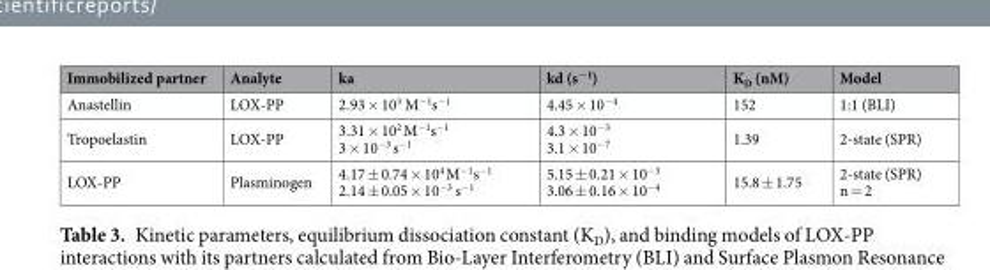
<table><thead><tr><td>Immobilized partner</td><td>Analyte</td><td>ka</td><td>kd (s<sup>−1</sup>)</td><td>K<sub>D</sub> (nM)</td><td>Model</td></tr></thead><tbody><tr><td>Anastellin</td><td>LOX-PP</td><td>2.93 × 10<sup>3</sup> M<sup>−1</sup>s<sup>−1</sup></td><td>4.45 × 10<sup>−4</sup></td><td>152</td><td>1:1 (BLI)</td></tr><tr><td>Tropoelastin</td><td>LOX-PP</td><td>3.31 × 10<sup>2</sup> M<sup>−1</sup>s<sup>−1</sup> 3 × 10<sup>−3</sup> s<sup>−1</sup></td><td>4.3 × 10<sup>−3</sup> 3.1 × 10<sup>−7</sup></td><td>1.39</td><td>2-state (SPR)</td></tr><tr><td>LOX-PP</td><td>Plasminogen</td><td>4.17 ± 0.74 × 10<sup>4</sup> M<sup>−1</sup>s<sup>−1</sup> 2.14 ± 0.05 × 10<sup>−3</sup> s<sup>−1</sup></td><td>5.15 ± 0.21 × 10<sup>−3</sup> 3.06 ± 0.16 × 10<sup>−4</sup></td><td>15.8 ± 1.75</td><td>2-state (SPR) n = 2</td></tr></tbody></table>